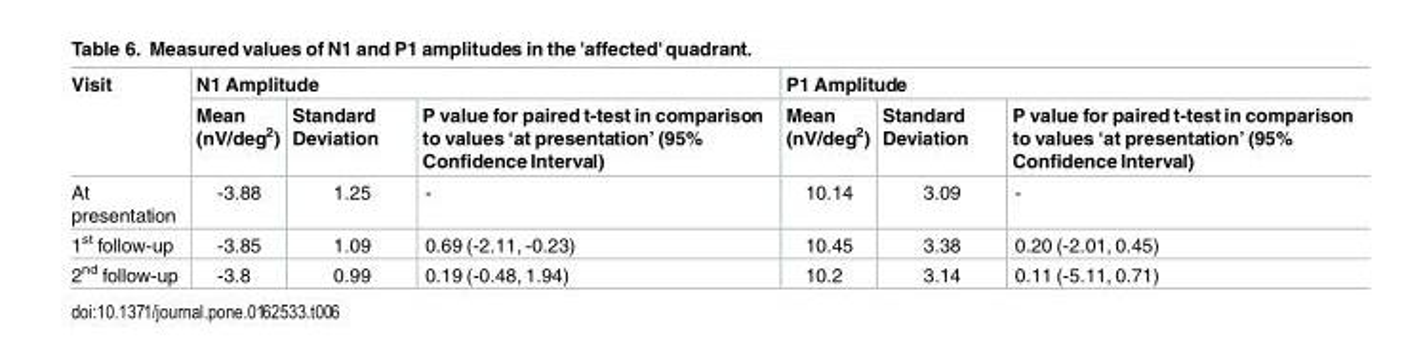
<table><thead><tr><td rowspan="2">Visit</td><td colspan="3">N1 Amplitude</td><td colspan="3">P1 Amplitude</td></tr><tr><td>Mean (nV/deg<sup>2</sup>)</td><td>Standard Deviation</td><td>P value for paired t-test in comparison to values ‘at presentation’ (95% Confidence Interval)</td><td>Mean (nV/deg<sup>2</sup>)</td><td>Standard Deviation</td><td>P value for paired t-test in comparison to values ‘at presentation’ (95% Confidence Interval)</td></tr></thead><tbody><tr><td>At presentation</td><td>-3.88</td><td>1.25</td><td>-</td><td>10.14</td><td>3.09</td><td>-</td></tr><tr><td>1<sup>st</sup> follow-up</td><td>-3.85</td><td>1.09</td><td>0.69 (-2.11, -0.23)</td><td>10.45</td><td>3.38</td><td>0.20 (-2.01, 0.45)</td></tr><tr><td>2<sup>nd</sup> follow-up</td><td>-3.8</td><td>0.99</td><td>0.19 (-0.48, 1.94)</td><td>10.2</td><td>3.14</td><td>0.11 (-5.11, 0.71)</td></tr></tbody></table>